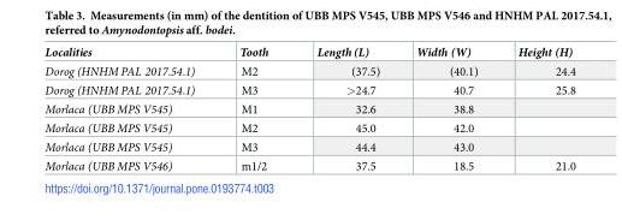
<table><thead><tr><td>Localities</td><td>Tooth</td><td>Length (L)</td><td>Width (W)</td><td>Height (H)</td></tr></thead><tbody><tr><td>Dorog (HNHM PAL 2017.54.1)</td><td>M2</td><td>(37.5)</td><td>(40.1)</td><td>24.4</td></tr><tr><td>Dorog (HNHM PAL 2017.54.1)</td><td>M3</td><td>&gt;24.7</td><td>40.7</td><td>25.8</td></tr><tr><td>Morlaca (UBB MPS V545)</td><td>M1</td><td>32.6</td><td>38.8</td><td></td></tr><tr><td>Morlaca (UBB MPS V545)</td><td>M2</td><td>45.0</td><td>42.0</td><td></td></tr><tr><td>Morlaca (UBB MPS V545)</td><td>M3</td><td>44.4</td><td>43.0</td><td></td></tr><tr><td>Morlaca (UBB MPS V546)</td><td>m1/2</td><td>37.5</td><td>18.5</td><td>21.0</td></tr></tbody></table>